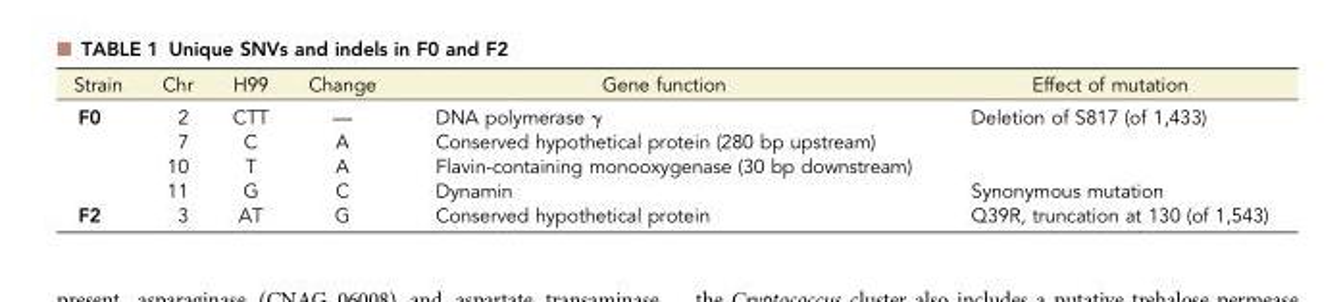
<table><thead><tr><td>Strain</td><td>Chr</td><td>H99</td><td>Change</td><td>Gene function</td><td>Effect of mutation</td></tr></thead><tbody><tr><td rowspan="4">F0</td><td>2</td><td>CTT</td><td>—</td><td>DNA polymerase γ</td><td>Deletion of S817 (of 1,433)</td></tr><tr><td>7</td><td>C</td><td>A</td><td>Conserved hypothetical protein (280 bp upstream)</td><td></td></tr><tr><td>10</td><td>T</td><td>A</td><td>Flavin-containing monooxygenase (30 bp downstream)</td><td></td></tr><tr><td>11</td><td>G</td><td>C</td><td>Dynamin</td><td>Synonymous mutation</td></tr><tr><td>F2</td><td>3</td><td>AT</td><td>G</td><td>Conserved hypothetical protein</td><td>Q39R, truncation at 130 (of 1,543)</td></tr></tbody></table>